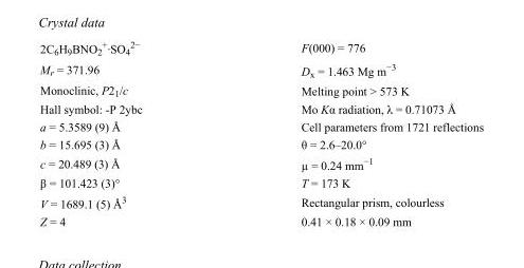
<table><tbody><tr><td>2C<sub>6</sub>H<sub>9</sub>BNO<sub>2</sub> <sup>+</sup>·SO<sub>4</sub> <sup>2−</sup></td><td>F(000) = 776</td></tr><tr><td>M<sub>r</sub> = 371.96</td><td>D<sub>x</sub> = 1.463 Mg m<sup>−3</sup></td></tr><tr><td>Monoclinic, P2<sub>1</sub>/c</td><td>Melting point &gt; 573 K</td></tr><tr><td>Hall symbol: -P 2ybc</td><td>Mo Kα radiation, λ = 0.71073 Å</td></tr><tr><td>a = 5.3589 (9) Å</td><td>Cell parameters from 1721 reflections</td></tr><tr><td>b = 15.695 (3) Å</td><td>θ = 2.6–20.0°</td></tr><tr><td>c = 20.489 (3) Å</td><td>µ = 0.24 mm<sup>−1</sup></td></tr><tr><td>β = 101.423 (3)°</td><td>T = 173 K</td></tr><tr><td>V = 1689.1 (5) Å<sup>3</sup></td><td>Rectangular prism, colourless</td></tr><tr><td>Z = 4</td><td>0.41 × 0.18 × 0.09 mm</td></tr></tbody></table>